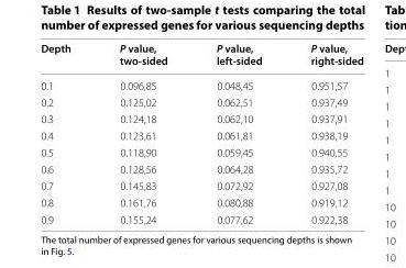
<table><thead><tr><td>Depth</td><td>P value, two-sided</td><td>P value, left-sided</td><td>P value, right-sided</td></tr></thead><tbody><tr><td>0.1</td><td>0.096,85</td><td>0.048,45</td><td>0.951,57</td></tr><tr><td>0.2</td><td>0.125,02</td><td>0.062,51</td><td>0.937,49</td></tr><tr><td>0.3</td><td>0.124,18</td><td>0.062,10</td><td>0.937,91</td></tr><tr><td>0.4</td><td>0.123,61</td><td>0.061,81</td><td>0.938,19</td></tr><tr><td>0.5</td><td>0.118,90</td><td>0.059,45</td><td>0.940,55</td></tr><tr><td>0.6</td><td>0.128,56</td><td>0.064,28</td><td>0.935,72</td></tr><tr><td>0.7</td><td>0.145,83</td><td>0.072,92</td><td>0.927,08</td></tr><tr><td>0.8</td><td>0.161,76</td><td>0.080,88</td><td>0.919,12</td></tr><tr><td>0.9</td><td>0.155,24</td><td>0.077,62</td><td>0.922,38</td></tr></tbody></table>